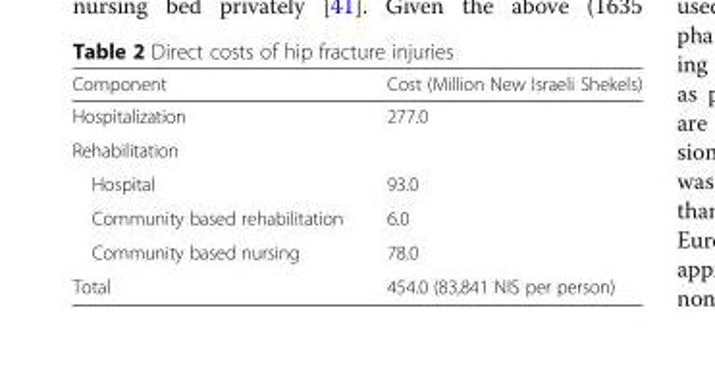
<table><thead><tr><td>Component</td><td>Cost (Million New Israeli Shekels)</td></tr></thead><tbody><tr><td>Hospitalization</td><td>277.0</td></tr><tr><td colspan="2">Rehabilitation</td></tr><tr><td>Hospital</td><td>93.0</td></tr><tr><td>Community based rehabilitation</td><td>6.0</td></tr><tr><td>Community based nursing</td><td>78.0</td></tr><tr><td>Total</td><td>454.0 (83,841 NIS per person)</td></tr></tbody></table>